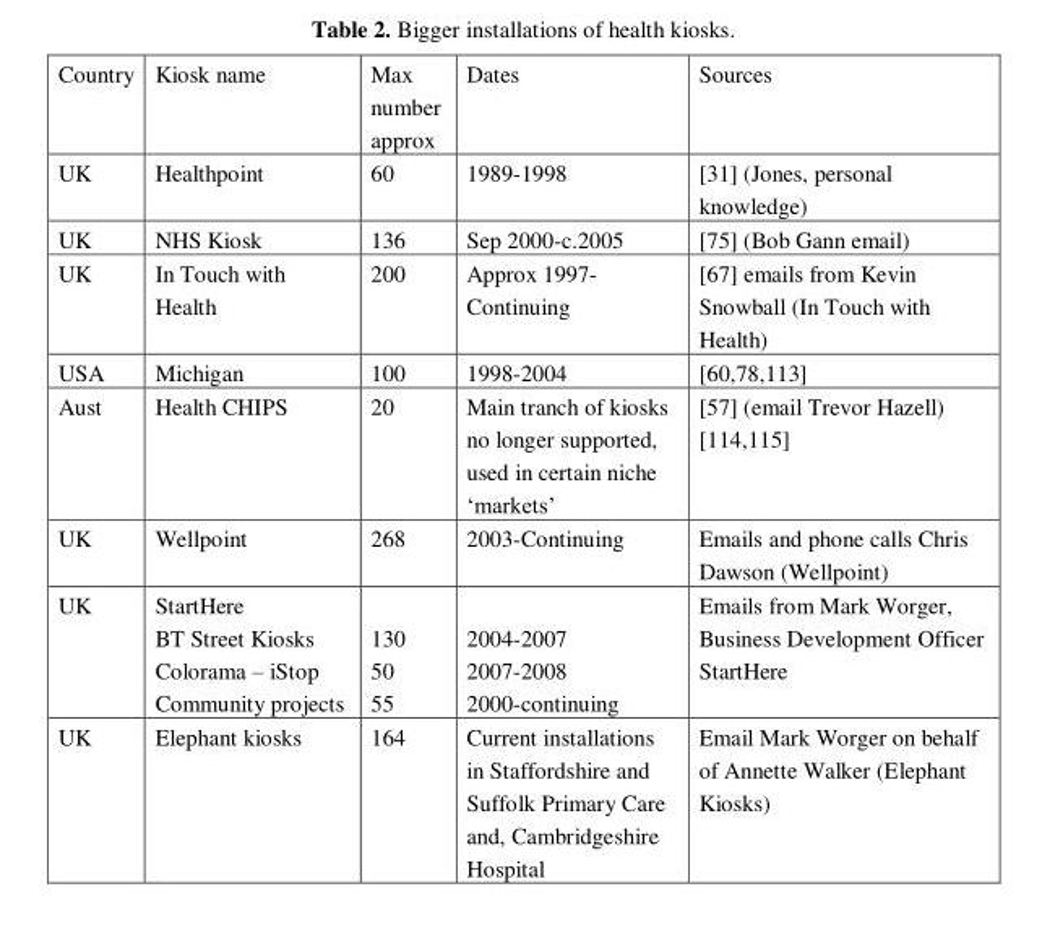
<table><thead><tr><td>Country</td><td>Kiosk name</td><td>Max number approx</td><td>Dates</td><td>Sources</td></tr></thead><tbody><tr><td>UK</td><td>Healthpoint</td><td>60</td><td>1989-1998</td><td>[31] (Jones, personal knowledge)</td></tr><tr><td>UK</td><td>NHS Kiosk</td><td>136</td><td>Sep 2000-c.2005</td><td>[75] (Bob Gann email)</td></tr><tr><td>UK</td><td>In Touch with Health</td><td>200</td><td>Approx 1997- Continuing</td><td>[67] emails from Kevin Snowball (In Touch with Health)</td></tr><tr><td>USA</td><td>Michigan</td><td>100</td><td>1998-2004</td><td>[60,78,113]</td></tr><tr><td>Aust</td><td>Health CHIPS</td><td>20</td><td>Main tranch of kiosks no longer supported, used in certain niche ‗markets‘</td><td>[57] (email Trevor Hazell) [114,115]</td></tr><tr><td>UK</td><td>Wellpoint</td><td>268</td><td>2003-Continuing</td><td>Emails and phone calls Chris Dawson (Wellpoint)</td></tr><tr><td>UK</td><td>StartHere BT Street Kiosks Colorama – iStop Community projects</td><td>130 50 55</td><td>2004-2007 2007-2008 2000-continuing</td><td>Emails from Mark Worger, Business Development Officer StartHere</td></tr><tr><td>UK</td><td>Elephant kiosks</td><td>164</td><td>Current installations in Staffordshire and Suffolk Primary Care and, Cambridgeshire Hospital</td><td>Email Mark Worger on behalf of Annette Walker (Elephant Kiosks)</td></tr></tbody></table>